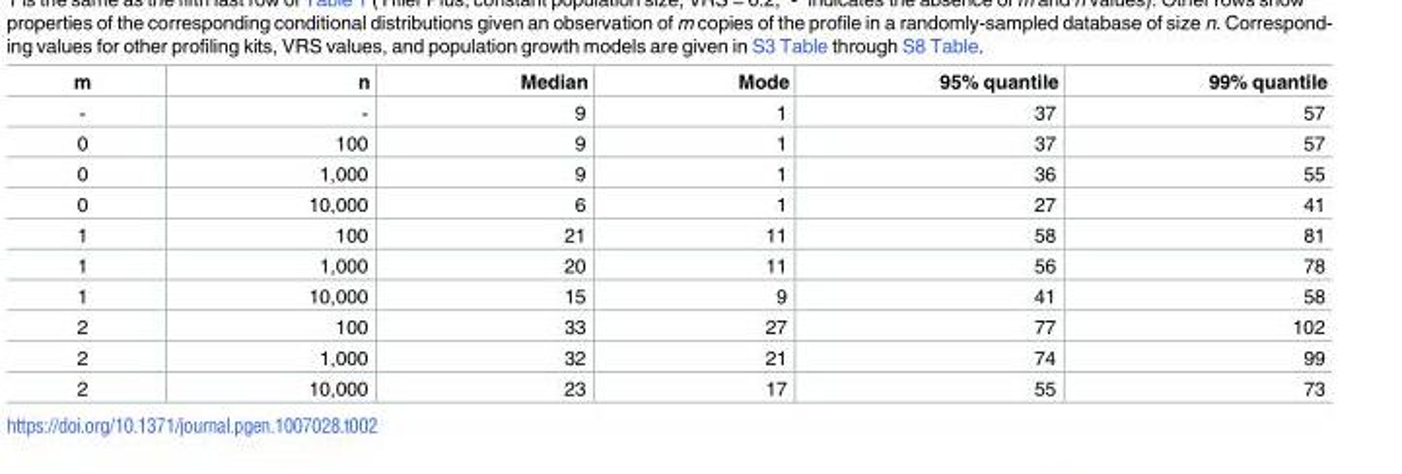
<table><thead><tr><td>m</td><td>n</td><td>Median</td><td>Mode</td><td>95% quantile</td><td>99% quantile</td></tr></thead><tbody><tr><td>-</td><td>-</td><td>9</td><td>1</td><td>37</td><td>57</td></tr><tr><td>0</td><td>100</td><td>9</td><td>1</td><td>37</td><td>57</td></tr><tr><td>0</td><td>1,000</td><td>9</td><td>1</td><td>36</td><td>55</td></tr><tr><td>0</td><td>10,000</td><td>6</td><td>1</td><td>27</td><td>41</td></tr><tr><td>1</td><td>100</td><td>21</td><td>11</td><td>58</td><td>81</td></tr><tr><td>1</td><td>1,000</td><td>20</td><td>11</td><td>56</td><td>78</td></tr><tr><td>1</td><td>10,000</td><td>15</td><td>9</td><td>41</td><td>58</td></tr><tr><td>2</td><td>100</td><td>33</td><td>27</td><td>77</td><td>102</td></tr><tr><td>2</td><td>1,000</td><td>32</td><td>21</td><td>74</td><td>99</td></tr><tr><td>2</td><td>10,000</td><td>23</td><td>17</td><td>55</td><td>73</td></tr></tbody></table>